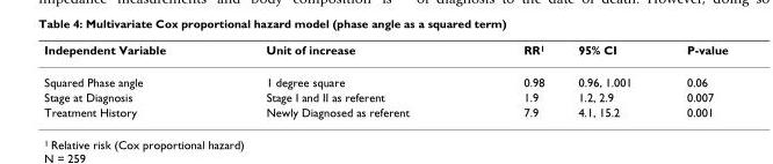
<table><thead><tr><td>Independent Variable</td><td>Unit of increase</td><td>RR<sup>1</sup></td><td>95% CI</td><td>P-value</td></tr></thead><tbody><tr><td>Squared Phase angle</td><td>1 degree square</td><td>0.98</td><td>0.96, 1.001</td><td>0.06</td></tr><tr><td>Stage at Diagnosis</td><td>Stage I and II as referent</td><td>1.9</td><td>1.2, 2.9</td><td>0.007</td></tr><tr><td>Treatment History</td><td>Newly Diagnosed as referent</td><td>7.9</td><td>4.1, 15.2</td><td>0.001</td></tr></tbody></table>